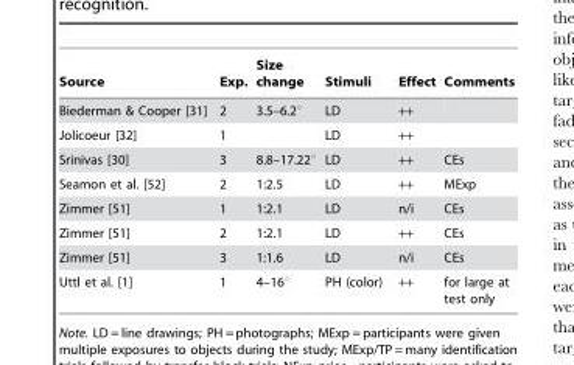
<table><thead><tr><td>Source</td><td>Exp.</td><td>Size change</td><td>Stimuli</td><td>Effect</td><td>Comments</td></tr></thead><tbody><tr><td>Biederman &amp; Cooper [31]</td><td>2</td><td>3.5–6.2°</td><td>LD</td><td>++</td><td></td></tr><tr><td>Jolicoeur [32]</td><td>1</td><td></td><td>LD</td><td>++</td><td></td></tr><tr><td>Srinivas [30]</td><td>3</td><td>8.8–17.22°</td><td>LD</td><td>++</td><td>CEs</td></tr><tr><td>Seamon et al. [52]</td><td>2</td><td>1:2.5</td><td>LD</td><td>++</td><td>MExp</td></tr><tr><td>Zimmer [51]</td><td>1</td><td>1:2.1</td><td>LD</td><td>n/i</td><td>CEs</td></tr><tr><td>Zimmer [51]</td><td>2</td><td>1:2.1</td><td>LD</td><td>++</td><td>CEs</td></tr><tr><td>Zimmer [51]</td><td>3</td><td>1:1.6</td><td>LD</td><td>n/i</td><td>CEs</td></tr><tr><td>Uttl et al. [1]</td><td>1</td><td>4–16°</td><td>PH (color)</td><td>++</td><td>for large at test only</td></tr></tbody></table>